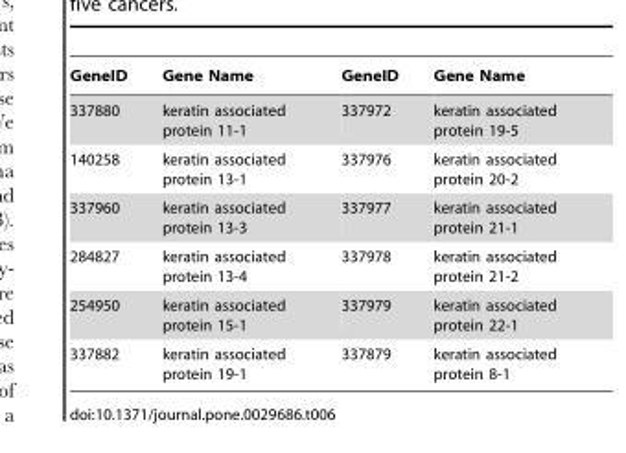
<table><thead><tr><td>GeneID</td><td>Gene Name</td><td>GeneID</td><td>Gene Name</td></tr></thead><tbody><tr><td>337880</td><td>keratin associated protein 11-1</td><td>337972</td><td>keratin associated protein 19-5</td></tr><tr><td>140258</td><td>keratin associated protein 13-1</td><td>337976</td><td>keratin associated protein 20-2</td></tr><tr><td>337960</td><td>keratin associated protein 13-3</td><td>337977</td><td>keratin associated protein 21-1</td></tr><tr><td>284827</td><td>keratin associated protein 13-4</td><td>337978</td><td>keratin associated protein 21-2</td></tr><tr><td>254950</td><td>keratin associated protein 15-1</td><td>337979</td><td>keratin associated protein 22-1</td></tr><tr><td>337882</td><td>keratin associated protein 19-1</td><td>337879</td><td>keratin associated protein 8-1</td></tr></tbody></table>